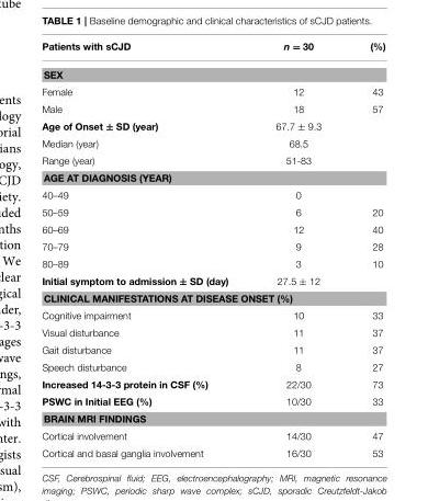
<table><thead><tr><td>Patients with sCJD</td><td>n = 30</td><td>(%)</td></tr></thead><tbody><tr><td colspan="3">SEX</td></tr><tr><td>Female</td><td>12</td><td>43</td></tr><tr><td>Male</td><td>18</td><td>57</td></tr><tr><td>Age of Onset ± SD (year)</td><td>67.7 ± 9.3</td><td></td></tr><tr><td>Median (year)</td><td>68.5</td><td></td></tr><tr><td>Range (year)</td><td>51-83</td><td></td></tr><tr><td colspan="3">AGE AT DIAGNOSIS (YEAR)</td></tr><tr><td>40–49</td><td>0</td><td></td></tr><tr><td>50–59</td><td>6</td><td>20</td></tr><tr><td>60–69</td><td>12</td><td>40</td></tr><tr><td>70–79</td><td>9</td><td>28</td></tr><tr><td>80–89</td><td>3</td><td>10</td></tr><tr><td>Initial symptom to admission ± SD (day)</td><td>27.5 ± 12</td><td></td></tr><tr><td colspan="3">CLINICAL MANIFESTATIONS AT DISEASE ONSET (%)</td></tr><tr><td>Cognitive impairment</td><td>10</td><td>33</td></tr><tr><td>Visual disturbance</td><td>11</td><td>37</td></tr><tr><td>Gait disturbance</td><td>11</td><td>37</td></tr><tr><td>Speech disturbance</td><td>8</td><td>27</td></tr><tr><td>Increased 14-3-3 protein in CSF (%)</td><td>22/30</td><td>73</td></tr><tr><td>PSWC in Initial EEG (%)</td><td>10/30</td><td>33</td></tr><tr><td colspan="3">BRAIN MRI FINDINGS</td></tr><tr><td>Cortical involvement</td><td>14/30</td><td>47</td></tr><tr><td>Cortical and basal ganglia involvement</td><td>16/30</td><td>53</td></tr></tbody></table>